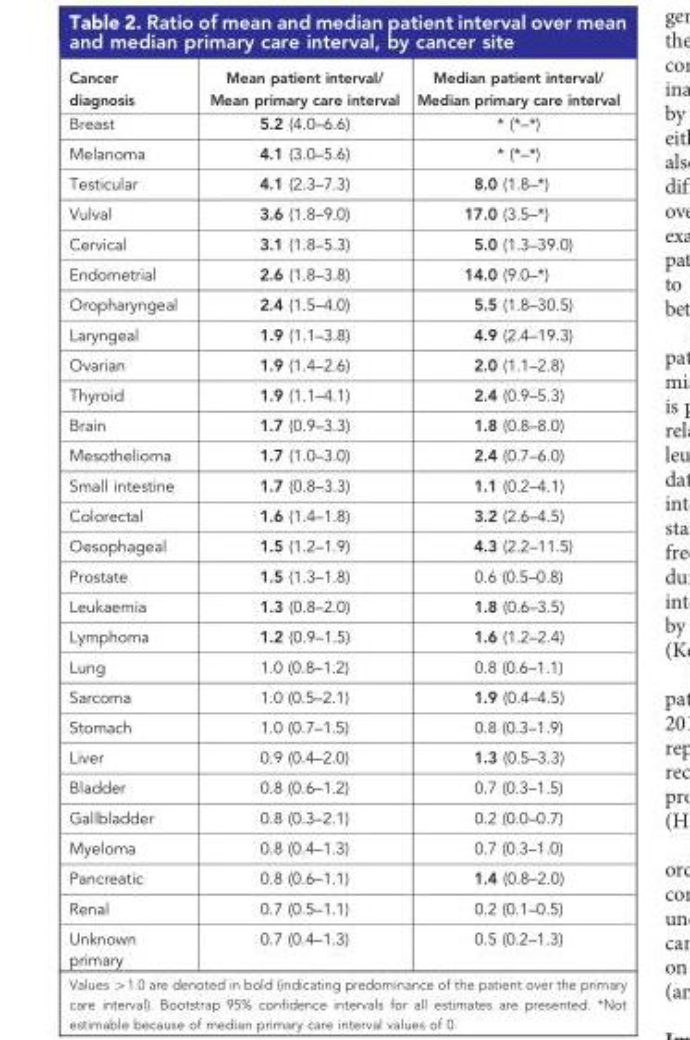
<table><thead><tr><td>Cancer diagnosis</td><td>Mean patient interval/ Mean primary care interval</td><td>Median patient interval/ Median primary care interval</td></tr></thead><tbody><tr><td>Breast</td><td>5.2 (4.0–6.6)</td><td>* (*–*)</td></tr><tr><td>Melanoma</td><td>4.1 (3.0–5.6)</td><td>* (*–*)</td></tr><tr><td>Testicular</td><td>4.1 (2.3–7.3)</td><td>8.0 (1.8–*)</td></tr><tr><td>Vulval</td><td>3.6 (1.8–9.0)</td><td>17.0 (3.5–*)</td></tr><tr><td>Cervical</td><td>3.1 (1.8–5.3)</td><td>5.0 (1.3–39.0)</td></tr><tr><td>Endometrial</td><td>2.6 (1.8–3.8)</td><td>14.0 (9.0–*)</td></tr><tr><td>Oropharyngeal</td><td>2.4 (1.5–4.0)</td><td>5.5 (1.8–30.5)</td></tr><tr><td>Laryngeal</td><td>1.9 (1.1–3.8)</td><td>4.9 (2.4–19.3)</td></tr><tr><td>Ovarian</td><td>1.9 (1.4–2.6)</td><td>2.0 (1.1–2.8)</td></tr><tr><td>Thyroid</td><td>1.9 (1.1–4.1)</td><td>2.4 (0.9–5.3)</td></tr><tr><td>Brain</td><td>1.7 (0.9–3.3)</td><td>1.8 (0.8–8.0)</td></tr><tr><td>Mesothelioma</td><td>1.7 (1.0–3.0)</td><td>2.4 (0.7–6.0)</td></tr><tr><td>Small intestine</td><td>1.7 (0.8–3.3)</td><td>1.1 (0.2–4.1)</td></tr><tr><td>Colorectal</td><td>1.6 (1.4–1.8)</td><td>3.2 (2.6–4.5)</td></tr><tr><td>Oesophageal</td><td>1.5 (1.2–1.9)</td><td>4.3 (2.2–11.5)</td></tr><tr><td>Prostate</td><td>1.5 (1.3–1.8)</td><td>0.6 (0.5–0.8)</td></tr><tr><td>Leukaemia</td><td>1.3 (0.8–2.0)</td><td>1.8 (0.6–3.5)</td></tr><tr><td>Lymphoma</td><td>1.2 (0.9–1.5)</td><td>1.6 (1.2–2.4)</td></tr><tr><td>Lung</td><td>1.0 (0.8–1.2)</td><td>0.8 (0.6–1.1)</td></tr><tr><td>Sarcoma</td><td>1.0 (0.5–2.1)</td><td>1.9 (0.4–4.5)</td></tr><tr><td>Stomach</td><td>1.0 (0.7–1.5)</td><td>0.8 (0.3–1.9)</td></tr><tr><td>Liver</td><td>0.9 (0.4–2.0)</td><td>1.3 (0.5–3.3)</td></tr><tr><td>Bladder</td><td>0.8 (0.6–1.2)</td><td>0.7 (0.3–1.5)</td></tr><tr><td>Gallbladder</td><td>0.8 (0.3–2.1)</td><td>0.2 (0.0–0.7)</td></tr><tr><td>Myeloma</td><td>0.8 (0.4–1.3)</td><td>0.7 (0.3–1.0)</td></tr><tr><td>Pancreatic</td><td>0.8 (0.6–1.1)</td><td>1.4 (0.8–2.0)</td></tr><tr><td>Renal</td><td>0.7 (0.5–1.1)</td><td>0.2 (0.1–0.5)</td></tr><tr><td>Unknown primary</td><td>0.7 (0.4–1.3)</td><td>0.5 (0.2–1.3)</td></tr></tbody></table>